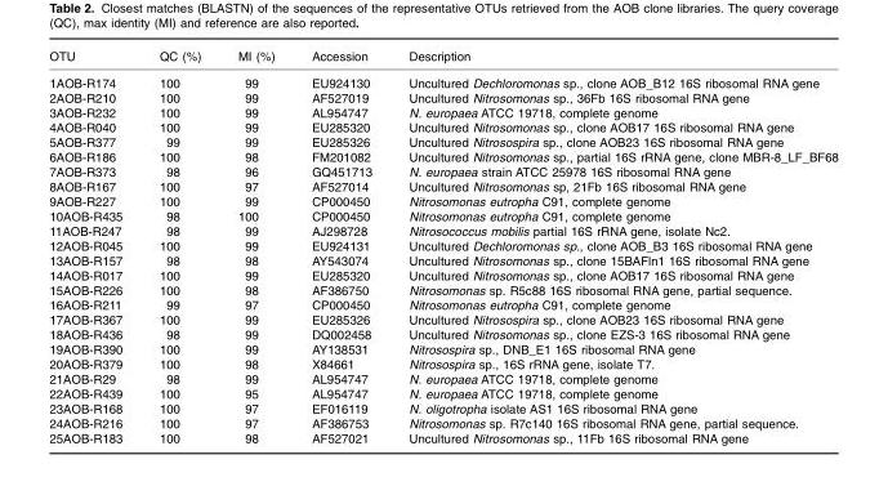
<table><thead><tr><td>OTU</td><td>QC (%)</td><td>MI (%)</td><td>Accession</td><td>Description</td></tr></thead><tbody><tr><td>1AOB-R174</td><td>100</td><td>99</td><td>EU924130</td><td>Uncultured Dechloromonas sp., clone AOB_B12 16S ribosomal RNA gene</td></tr><tr><td>2AOB-R210</td><td>100</td><td>99</td><td>AF527019</td><td>Uncultured Nitrosomonas sp., 36Fb 16S ribosomal RNA gene</td></tr><tr><td>3AOB-R232</td><td>100</td><td>99</td><td>AL954747</td><td>N. europaea ATCC 19718, complete genome</td></tr><tr><td>4AOB-R040</td><td>100</td><td>99</td><td>EU285320</td><td>Uncultured Nitrosomonas sp., clone AOB17 16S ribosomal RNA gene</td></tr><tr><td>5AOB-R377</td><td>99</td><td>99</td><td>EU285326</td><td>Uncultured Nitrosospira sp., clone AOB23 16S ribosomal RNA gene</td></tr><tr><td>6AOB-R186</td><td>100</td><td>98</td><td>FM201082</td><td>Uncultured Nitrosomonas sp., partial 16S rRNA gene, clone MBR-8_LF_BF68</td></tr><tr><td>7AOB-R373</td><td>98</td><td>96</td><td>GQ451713</td><td>N. europaea strain ATCC 25978 16S ribosomal RNA gene</td></tr><tr><td>8AOB-R167</td><td>100</td><td>97</td><td>AF527014</td><td>Uncultured Nitrosomonas sp, 21Fb 16S ribosomal RNA gene</td></tr><tr><td>9AOB-R227</td><td>100</td><td>99</td><td>CP000450</td><td>Nitrosomonas eutropha C91, complete genome</td></tr><tr><td>10AOB-R435</td><td>98</td><td>100</td><td>CP000450</td><td>Nitrosomonas eutropha C91, complete genome</td></tr><tr><td>11AOB-R247</td><td>98</td><td>99</td><td>AJ298728</td><td>Nitrosococcus mobilis partial 16S rRNA gene, isolate Nc2.</td></tr><tr><td>12AOB-R045</td><td>100</td><td>99</td><td>EU924131</td><td>Uncultured Dechloromonas sp., clone AOB_B3 16S ribosomal RNA gene</td></tr><tr><td>13AOB-R157</td><td>98</td><td>98</td><td>AY543074</td><td>Uncultured Nitrosomonas sp., clone 15BAFln1 16S ribosomal RNA gene</td></tr><tr><td>14AOB-R017</td><td>100</td><td>99</td><td>EU285320</td><td>Uncultured Nitrosomonas sp., clone AOB17 16S ribosomal RNA gene</td></tr><tr><td>15AOB-R226</td><td>100</td><td>98</td><td>AF386750</td><td>Nitrosomonas sp. R5c88 16S ribosomal RNA gene, partial sequence.</td></tr><tr><td>16AOB-R211</td><td>99</td><td>97</td><td>CP000450</td><td>Nitrosomonas eutropha C91, complete genome</td></tr><tr><td>17AOB-R367</td><td>100</td><td>99</td><td>EU285326</td><td>Uncultured Nitrosospira sp., clone AOB23 16S ribosomal RNA gene</td></tr><tr><td>18AOB-R436</td><td>98</td><td>99</td><td>DQ002458</td><td>Uncultured Nitrosomonas sp., clone EZS-3 16S ribosomal RNA gene</td></tr><tr><td>19AOB-R390</td><td>100</td><td>99</td><td>AY138531</td><td>Nitrosospira sp., DNB_E1 16S ribosomal RNA gene</td></tr><tr><td>20AOB-R379</td><td>100</td><td>98</td><td>X84661</td><td>Nitrosospira sp., 16S rRNA gene, isolate T7.</td></tr><tr><td>21AOB-R29</td><td>98</td><td>99</td><td>AL954747</td><td>N. europaea ATCC 19718, complete genome</td></tr><tr><td>22AOB-R439</td><td>100</td><td>95</td><td>AL954747</td><td>N. europaea ATCC 19718, complete genome</td></tr><tr><td>23AOB-R168</td><td>100</td><td>97</td><td>EF016119</td><td>N. oligotropha isolate AS1 16S ribosomal RNA gene</td></tr><tr><td>24AOB-R216</td><td>100</td><td>97</td><td>AF386753</td><td>Nitrosomonas sp. R7c140 16S ribosomal RNA gene, partial sequence.</td></tr><tr><td>25AOB-R183</td><td>100</td><td>98</td><td>AF527021</td><td>Uncultured Nitrosomonas sp., 11Fb 16S ribosomal RNA gene</td></tr></tbody></table>